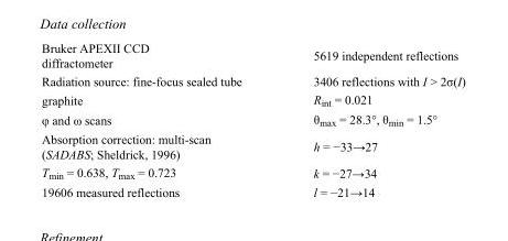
<table><tbody><tr><td>Bruker APEXII CCD diffractometer</td><td>5619 independent reflections</td></tr><tr><td>Radiation source: fine-focus sealed tube</td><td>3406 reflections with I &gt; 2σ(I)</td></tr><tr><td>graphite</td><td>R<sub>int</sub> = 0.021</td></tr><tr><td>φ and ω scans</td><td>θ<sub>max</sub> = 28.3°, θ<sub>min</sub> = 1.5°</td></tr><tr><td>Absorption correction: multi-scan (SADABS; Sheldrick, 1996)</td><td>h = −33→27</td></tr><tr><td>T<sub>min</sub> = 0.638, T<sub>max</sub> = 0.723</td><td>k = −27→34</td></tr><tr><td>19606 measured reflections</td><td>l = −21→14</td></tr></tbody></table>